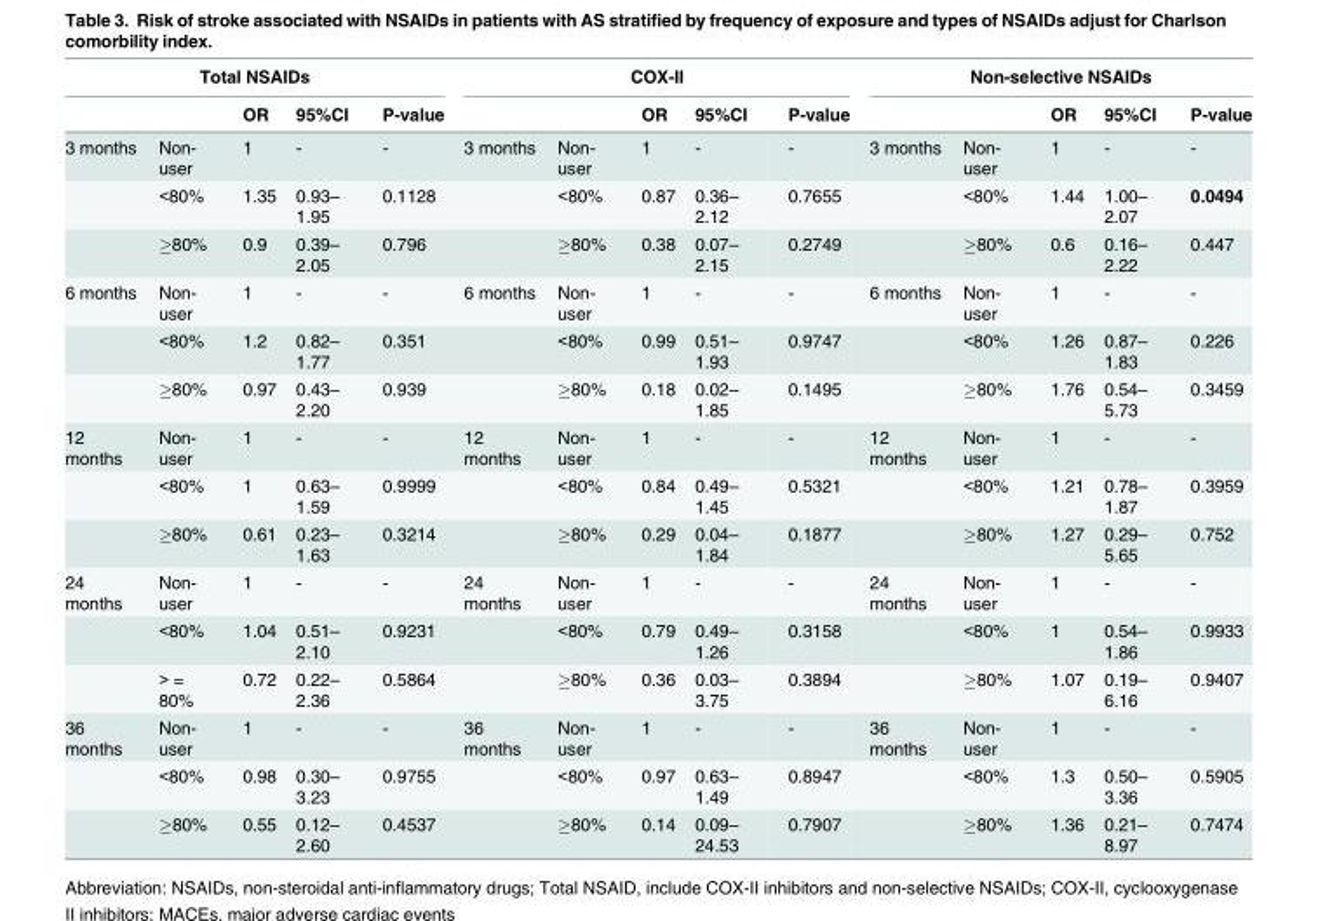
<table><thead><tr><td colspan="5">Total NSAIDs</td><td colspan="5">COX-II</td><td colspan="5">Non-selective NSAIDs</td></tr><tr><td></td><td></td><td>OR</td><td>95%CI</td><td>P-value</td><td></td><td></td><td>OR</td><td>95%CI</td><td>P-value</td><td></td><td></td><td>OR</td><td>95%CI</td><td>P-value</td></tr></thead><tbody><tr><td rowspan="3">3 months</td><td>Non- user</td><td>1</td><td>-</td><td>-</td><td>3 months</td><td>Non- user</td><td>1</td><td>-</td><td>-</td><td>3 months</td><td>Non- user</td><td>1</td><td>-</td><td>-</td></tr><tr><td>&lt;80%</td><td>1.35</td><td>0.93– 1.95</td><td>0.1128</td><td></td><td>&lt;80%</td><td>0.87</td><td>0.36– 2.12</td><td>0.7655</td><td></td><td>&lt;80%</td><td>1.44</td><td>1.00– 2.07</td><td>0.0494</td></tr><tr><td>≥80%</td><td>0.9</td><td>0.39– 2.05</td><td>0.796</td><td></td><td>≥80%</td><td>0.38</td><td>0.07– 2.15</td><td>0.2749</td><td></td><td>≥80%</td><td>0.6</td><td>0.16– 2.22</td><td>0.447</td></tr><tr><td rowspan="3">6 months</td><td>Non- user</td><td>1</td><td>-</td><td>-</td><td>6 months</td><td>Non- user</td><td>1</td><td>-</td><td>-</td><td>6 months</td><td>Non- user</td><td>1</td><td>-</td><td>-</td></tr><tr><td>&lt;80%</td><td>1.2</td><td>0.82– 1.77</td><td>0.351</td><td></td><td>&lt;80%</td><td>0.99</td><td>0.51– 1.93</td><td>0.9747</td><td></td><td>&lt;80%</td><td>1.26</td><td>0.87– 1.83</td><td>0.226</td></tr><tr><td>≥80%</td><td>0.97</td><td>0.43– 2.20</td><td>0.939</td><td></td><td>≥80%</td><td>0.18</td><td>0.02– 1.85</td><td>0.1495</td><td></td><td>≥80%</td><td>1.76</td><td>0.54– 5.73</td><td>0.3459</td></tr><tr><td rowspan="3">12 months</td><td>Non- user</td><td>1</td><td>-</td><td>-</td><td>12 months</td><td>Non- user</td><td>1</td><td>-</td><td>-</td><td>12 months</td><td>Non- user</td><td>1</td><td>-</td><td>-</td></tr><tr><td>&lt;80%</td><td>1</td><td>0.63– 1.59</td><td>0.9999</td><td></td><td>&lt;80%</td><td>0.84</td><td>0.49– 1.45</td><td>0.5321</td><td></td><td>&lt;80%</td><td>1.21</td><td>0.78– 1.87</td><td>0.3959</td></tr><tr><td>≥80%</td><td>0.61</td><td>0.23– 1.63</td><td>0.3214</td><td></td><td>≥80%</td><td>0.29</td><td>0.04– 1.84</td><td>0.1877</td><td></td><td>≥80%</td><td>1.27</td><td>0.29– 5.65</td><td>0.752</td></tr><tr><td rowspan="3">24 months</td><td>Non- user</td><td>1</td><td>-</td><td>-</td><td>24 months</td><td>Non- user</td><td>1</td><td>-</td><td>-</td><td>24 months</td><td>Non- user</td><td>1</td><td>-</td><td>-</td></tr><tr><td>&lt;80%</td><td>1.04</td><td>0.51– 2.10</td><td>0.9231</td><td></td><td>&lt;80%</td><td>0.79</td><td>0.49– 1.26</td><td>0.3158</td><td></td><td>&lt;80%</td><td>1</td><td>0.54– 1.86</td><td>0.9933</td></tr><tr><td>&gt; = 80%</td><td>0.72</td><td>0.22– 2.36</td><td>0.5864</td><td></td><td>≥80%</td><td>0.36</td><td>0.03– 3.75</td><td>0.3894</td><td></td><td>≥80%</td><td>1.07</td><td>0.19– 6.16</td><td>0.9407</td></tr><tr><td rowspan="3">36 months</td><td>Non- user</td><td>1</td><td>-</td><td>-</td><td>36 months</td><td>Non- user</td><td>1</td><td>-</td><td>-</td><td>36 months</td><td>Non- user</td><td>1</td><td>-</td><td>-</td></tr><tr><td>&lt;80%</td><td>0.98</td><td>0.30– 3.23</td><td>0.9755</td><td></td><td>&lt;80%</td><td>0.97</td><td>0.63– 1.49</td><td>0.8947</td><td></td><td>&lt;80%</td><td>1.3</td><td>0.50– 3.36</td><td>0.5905</td></tr><tr><td>≥80%</td><td>0.55</td><td>0.12– 2.60</td><td>0.4537</td><td></td><td>≥80%</td><td>0.14</td><td>0.09– 24.53</td><td>0.7907</td><td></td><td>≥80%</td><td>1.36</td><td>0.21– 8.97</td><td>0.7474</td></tr></tbody></table>